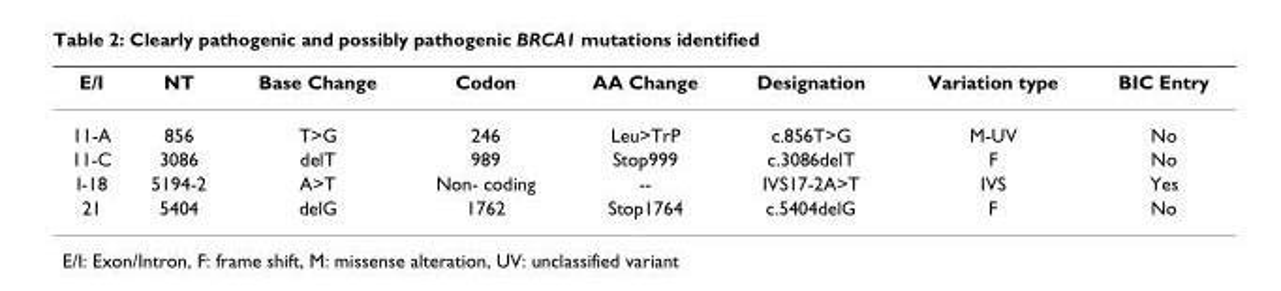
<table><thead><tr><td>E/I</td><td>NT</td><td>Base Change</td><td>Codon</td><td>AA Change</td><td>Designation</td><td>Variation type</td><td>BIC Entry</td></tr></thead><tbody><tr><td>11-A</td><td>856</td><td>T&gt;G</td><td>246</td><td>Leu&gt;TrP</td><td>c.856T&gt;G</td><td>M-UV</td><td>No</td></tr><tr><td>11-C</td><td>3086</td><td>delT</td><td>989</td><td>Stop999</td><td>c.3086delT</td><td>F</td><td>No</td></tr><tr><td>I-18</td><td>5194-2</td><td>A&gt;T</td><td>Non- coding</td><td>--</td><td>IVS17-2A&gt;T</td><td>IVS</td><td>Yes</td></tr><tr><td>21</td><td>5404</td><td>delG</td><td>1762</td><td>Stop1764</td><td>c.5404delG</td><td>F</td><td>No</td></tr></tbody></table>